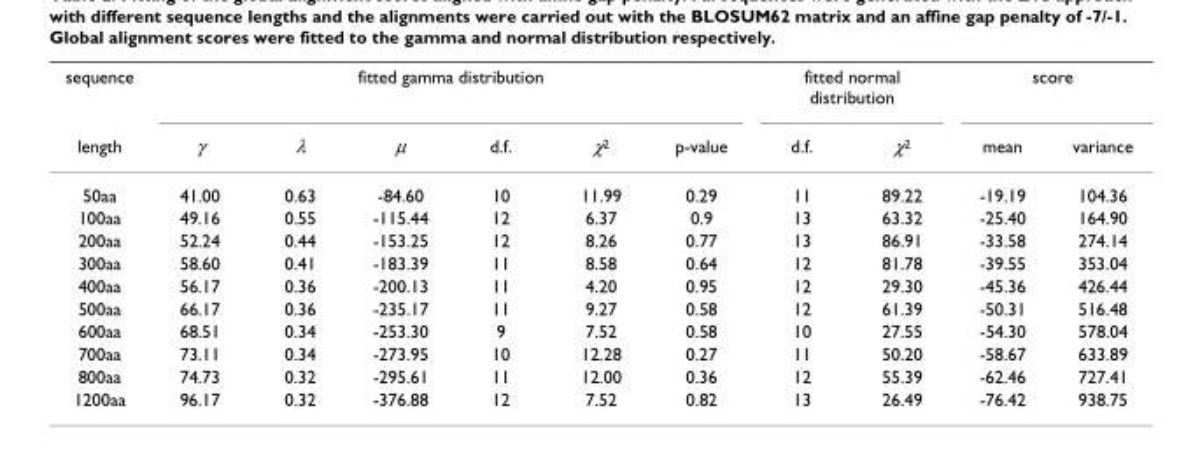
<table><thead><tr><td rowspan="2">sequence length</td><td colspan="6">fitted gamma distribution</td><td colspan="2">fitted normal distribution</td><td colspan="2">score</td></tr><tr><td>γ</td><td>λ</td><td>µ</td><td>d.f.</td><td>χ<sup>2</sup></td><td>p-value</td><td>d.f.</td><td>χ<sup>2</sup></td><td>mean</td><td>variance</td></tr></thead><tbody><tr><td>50aa</td><td>41.00</td><td>0.63</td><td>-84.60</td><td>10</td><td>11.99</td><td>0.29</td><td>11</td><td>89.22</td><td>-19.19</td><td>104.36</td></tr><tr><td>100aa</td><td>49.16</td><td>0.55</td><td>-115.44</td><td>12</td><td>6.37</td><td>0.9</td><td>13</td><td>63.32</td><td>-25.40</td><td>164.90</td></tr><tr><td>200aa</td><td>52.24</td><td>0.44</td><td>-153.25</td><td>12</td><td>8.26</td><td>0.77</td><td>13</td><td>86.91</td><td>-33.58</td><td>274.14</td></tr><tr><td>300aa</td><td>58.60</td><td>0.41</td><td>-183.39</td><td>11</td><td>8.58</td><td>0.64</td><td>12</td><td>81.78</td><td>-39.55</td><td>353.04</td></tr><tr><td>400aa</td><td>56.17</td><td>0.36</td><td>-200.13</td><td>11</td><td>4.20</td><td>0.95</td><td>12</td><td>29.30</td><td>-45.36</td><td>426.44</td></tr><tr><td>500aa</td><td>66.17</td><td>0.36</td><td>-235.17</td><td>11</td><td>9.27</td><td>0.58</td><td>12</td><td>61.39</td><td>-50.31</td><td>516.48</td></tr><tr><td>600aa</td><td>68.51</td><td>0.34</td><td>-253.30</td><td>9</td><td>7.52</td><td>0.58</td><td>10</td><td>27.55</td><td>-54.30</td><td>578.04</td></tr><tr><td>700aa</td><td>73.11</td><td>0.34</td><td>-273.95</td><td>10</td><td>12.28</td><td>0.27</td><td>11</td><td>50.20</td><td>-58.67</td><td>633.89</td></tr><tr><td>800aa</td><td>74.73</td><td>0.32</td><td>-295.61</td><td>11</td><td>12.00</td><td>0.36</td><td>12</td><td>55.39</td><td>-62.46</td><td>727.41</td></tr><tr><td>1200aa</td><td>96.17</td><td>0.32</td><td>-376.88</td><td>12</td><td>7.52</td><td>0.82</td><td>13</td><td>26.49</td><td>-76.42</td><td>938.75</td></tr></tbody></table>